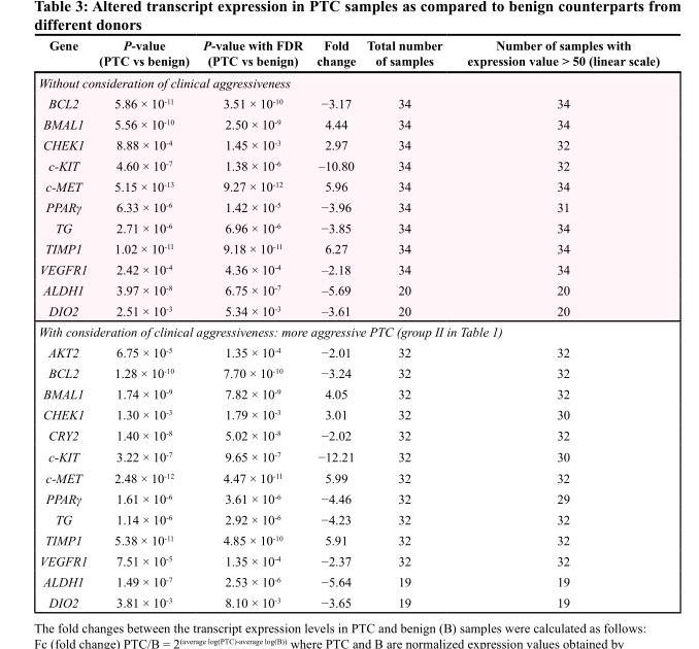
<table><thead><tr><td>Gene</td><td>P-value (PTC vs benign)</td><td>P-value with FDR (PTC vs benign)</td><td>Fold change</td><td>Total number of samples</td><td>Number of samples with expression value &gt; 50 (linear scale)</td></tr></thead><tbody><tr><td colspan="6">Without consideration of clinical aggressiveness</td></tr><tr><td>BCL2</td><td>5.86 × 10<sup>-11</sup></td><td>3.51 × 10<sup>-10</sup></td><td>−3.17</td><td>34</td><td>34</td></tr><tr><td>BMAL1</td><td>5.56 × 10<sup>-10</sup></td><td>2.50 × 10<sup>-9</sup></td><td>4.44</td><td>34</td><td>34</td></tr><tr><td>CHEK1</td><td>8.88 × 10<sup>-4</sup></td><td>1.45 × 10<sup>-3</sup></td><td>2.97</td><td>34</td><td>32</td></tr><tr><td>c-KIT</td><td>4.60 × 10<sup>-7</sup></td><td>1.38 × 10<sup>-6</sup></td><td>–10.80</td><td>34</td><td>32</td></tr><tr><td>c-MET</td><td>5.15 × 10<sup>-13</sup></td><td>9.27 × 10<sup>-12</sup></td><td>5.96</td><td>34</td><td>34</td></tr><tr><td>PPARγ</td><td>6.33 × 10<sup>-6</sup></td><td>1.42 × 10<sup>-5</sup></td><td>−3.96</td><td>34</td><td>31</td></tr><tr><td>TG</td><td>2.71 × 10<sup>-6</sup></td><td>6.96 × 10<sup>-6</sup></td><td>−3.85</td><td>34</td><td>34</td></tr><tr><td>TIMP1</td><td>1.02 × 10<sup>-11</sup></td><td>9.18 × 10<sup>-11</sup></td><td>6.27</td><td>34</td><td>34</td></tr><tr><td>VEGFR1</td><td>2.42 × 10<sup>-4</sup></td><td>4.36 × 10<sup>-4</sup></td><td>–2.18</td><td>34</td><td>34</td></tr><tr><td>ALDH1</td><td>3.97 × 10<sup>-8</sup></td><td>6.75 × 10<sup>-7</sup></td><td>–5.69</td><td>20</td><td>20</td></tr><tr><td>DIO2</td><td>2.51 × 10<sup>-3</sup></td><td>5.34 × 10<sup>-3</sup></td><td>–3.61</td><td>20</td><td>20</td></tr><tr><td colspan="6">With consideration of clinical aggressiveness: more aggressive PTC (group II in Table 1)</td></tr><tr><td>AKT2</td><td>6.75 × 10<sup>-5</sup></td><td>1.35 × 10<sup>-4</sup></td><td>−2.01</td><td>32</td><td>32</td></tr><tr><td>BCL2</td><td>1.28 × 10<sup>-10</sup></td><td>7.70 × 10<sup>-10</sup></td><td>−3.24</td><td>32</td><td>32</td></tr><tr><td>BMAL1</td><td>1.74 × 10<sup>-9</sup></td><td>7.82 × 10<sup>-9</sup></td><td>4.05</td><td>32</td><td>32</td></tr><tr><td>CHEK1</td><td>1.30 × 10<sup>-3</sup></td><td>1.79 × 10<sup>-3</sup></td><td>3.01</td><td>32</td><td>30</td></tr><tr><td>CRY2</td><td>1.40 × 10<sup>-8</sup></td><td>5.02 × 10<sup>-8</sup></td><td>−2.02</td><td>32</td><td>32</td></tr><tr><td>c-KIT</td><td>3.22 × 10<sup>-7</sup></td><td>9.65 × 10<sup>-7</sup></td><td>−12.21</td><td>32</td><td>30</td></tr><tr><td>c-MET</td><td>2.48 × 10<sup>-12</sup></td><td>4.47 × 10<sup>-11</sup></td><td>5.99</td><td>32</td><td>32</td></tr><tr><td>PPARγ</td><td>1.61 × 10<sup>-6</sup></td><td>3.61 × 10<sup>-6</sup></td><td>−4.46</td><td>32</td><td>29</td></tr><tr><td>TG</td><td>1.14 × 10<sup>-6</sup></td><td>2.92 × 10<sup>-6</sup></td><td>−4.23</td><td>32</td><td>32</td></tr><tr><td>TIMP1</td><td>5.38 × 10<sup>-11</sup></td><td>4.85 × 10<sup>-10</sup></td><td>5.91</td><td>32</td><td>32</td></tr><tr><td>VEGFR1</td><td>7.51 × 10<sup>-5</sup></td><td>1.35 × 10<sup>-4</sup></td><td>−2.37</td><td>32</td><td>32</td></tr><tr><td>ALDH1</td><td>1.49 × 10<sup>-7</sup></td><td>2.53 × 10<sup>-6</sup></td><td>−5.64</td><td>19</td><td>19</td></tr><tr><td>DIO2</td><td>3.81 × 10<sup>-3</sup></td><td>8.10 × 10<sup>-3</sup></td><td>−3.65</td><td>19</td><td>19</td></tr></tbody></table>